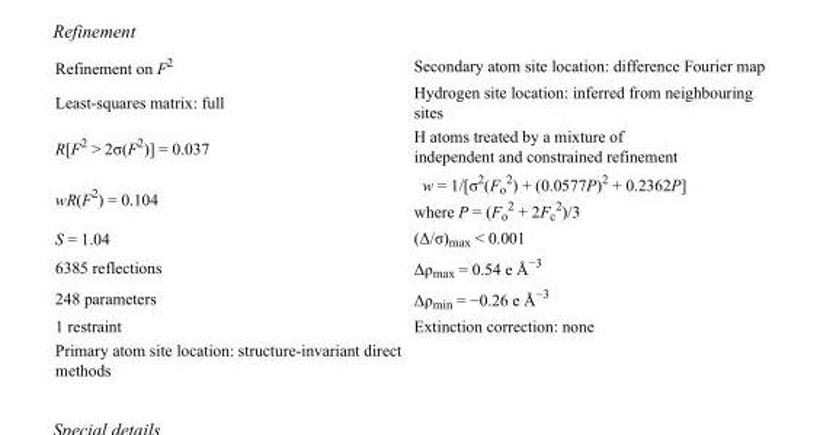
<table><tbody><tr><td>Refinement on F<sup>2</sup></td><td>Secondary atom site location: difference Fourier map</td></tr><tr><td>Least-squares matrix: full</td><td>Hydrogen site location: inferred from neighbouring sites</td></tr><tr><td>R[F<sup>2</sup> &gt; 2σ(F<sup>2</sup>)] = 0.037</td><td>H atoms treated by a mixture of independent and constrained refinement</td></tr><tr><td>wR(F<sup>2</sup>) = 0.104</td><td>w = 1/[σ<sup>2</sup>(F<sub>o</sub> <sup>2</sup>) + (0.0577P)<sup>2</sup> + 0.2362P] where P = (F<sub>o</sub> <sup>2</sup> + 2F<sub>c</sub> <sup>2</sup>)/3</td></tr><tr><td>S = 1.04</td><td>(Δ/σ)<sub>max</sub> &lt; 0.001</td></tr><tr><td>6385 reflections</td><td>Δρ<sub>max</sub> = 0.54 e Å<sup>−3</sup></td></tr><tr><td>248 parameters</td><td>Δρ<sub>min</sub> = −0.26 e Å<sup>−3</sup></td></tr><tr><td>1 restraint</td><td>Extinction correction: none</td></tr><tr><td>Primary atom site location: structure-invariant direct methods</td><td></td></tr></tbody></table>